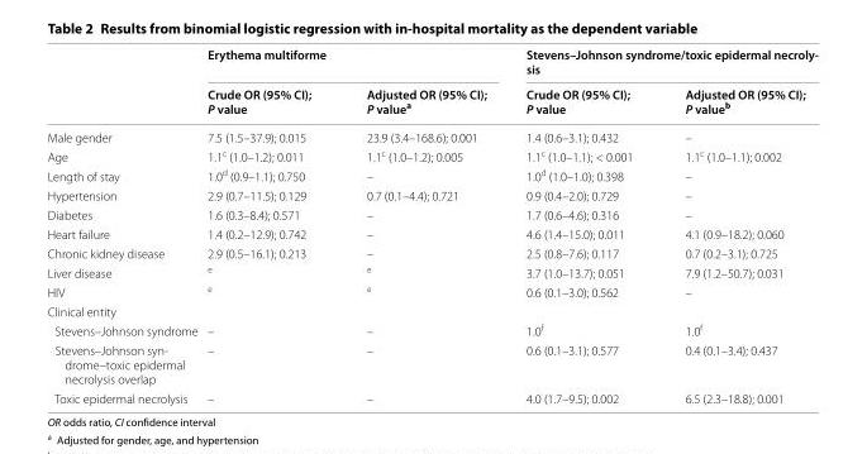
<table><thead><tr><td rowspan="2"></td><td colspan="2">Erythema multiforme</td><td colspan="2">Stevens–Johnson syndrome/toxic epidermal necroly- sis</td></tr><tr><td>Crude OR (95% CI); P value</td><td>Adjusted OR (95% CI); P value<sup>a</sup></td><td>Crude OR (95% CI); P value</td><td>Adjusted OR (95% CI); P value<sup>b</sup></td></tr></thead><tbody><tr><td>Male gender</td><td>7.5 (1.5–37.9); 0.015</td><td>23.9 (3.4–168.6); 0.001</td><td>1.4 (0.6–3.1); 0.432</td><td>–</td></tr><tr><td>Age</td><td>1.1<sup>c</sup> (1.0–1.2); 0.011</td><td>1.1<sup>c</sup> (1.0–1.2); 0.005</td><td>1.1<sup>c</sup> (1.0–1.1); &lt; 0.001</td><td>1.1<sup>c</sup> (1.0–1.1); 0.002</td></tr><tr><td>Length of stay</td><td>1.0<sup>d</sup> (0.9–1.1); 0.750</td><td>–</td><td>1.0<sup>d</sup> (1.0–1.0); 0.398</td><td>–</td></tr><tr><td>Hypertension</td><td>2.9 (0.7–11.5); 0.129</td><td>0.7 (0.1–4.4); 0.721</td><td>0.9 (0.4–2.0); 0.729</td><td>–</td></tr><tr><td>Diabetes</td><td>1.6 (0.3–8.4); 0.571</td><td>–</td><td>1.7 (0.6–4.6); 0.316</td><td>–</td></tr><tr><td>Heart failure</td><td>1.4 (0.2–12.9); 0.742</td><td>–</td><td>4.6 (1.4–15.0); 0.011</td><td>4.1 (0.9–18.2); 0.060</td></tr><tr><td>Chronic kidney disease</td><td>2.9 (0.5–16.1); 0.213</td><td>–</td><td>2.5 (0.8–7.6); 0.117</td><td>0.7 (0.2–3.1); 0.725</td></tr><tr><td>Liver disease</td><td><sup>e</sup></td><td><sup>e</sup></td><td>3.7 (1.0–13.7); 0.051</td><td>7.9 (1.2–50.7); 0.031</td></tr><tr><td>HIV</td><td><sup>e</sup></td><td><sup>e</sup></td><td>0.6 (0.1–3.0); 0.562</td><td>–</td></tr><tr><td colspan="5">Clinical entity</td></tr><tr><td>Stevens–Johnson syndrome</td><td>–</td><td>–</td><td>1.0<sup>f</sup></td><td>1.0<sup>f</sup></td></tr><tr><td>Stevens–Johnson syn‑ drome–toxic epidermal necrolysis overlap</td><td>–</td><td>–</td><td>0.6 (0.1–3.1); 0.577</td><td>0.4 (0.1–3.4); 0.437</td></tr><tr><td>Toxic epidermal necrolysis</td><td>–</td><td>–</td><td>4.0 (1.7–9.5); 0.002</td><td>6.5 (2.3–18.8); 0.001</td></tr></tbody></table>